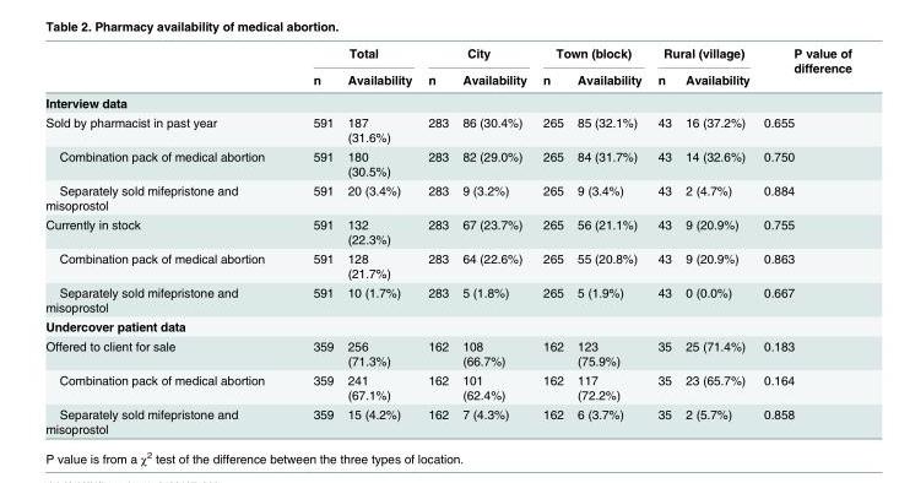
<table><thead><tr><td rowspan="2"></td><td colspan="2">Total</td><td colspan="2">City</td><td colspan="2">Town (block)</td><td colspan="2">Rural (village)</td><td rowspan="2">P value of difference</td></tr><tr><td>n</td><td>Availability</td><td>n</td><td>Availability</td><td>n</td><td>Availability</td><td>n</td><td>Availability</td></tr></thead><tbody><tr><td colspan="10">Interview data</td></tr><tr><td>Sold by pharmacist in past year</td><td>591</td><td>187 (31.6%)</td><td>283</td><td>86 (30.4%)</td><td>265</td><td>85 (32.1%)</td><td>43</td><td>16 (37.2%)</td><td>0.655</td></tr><tr><td>Combination pack of medical abortion</td><td>591</td><td>180 (30.5%)</td><td>283</td><td>82 (29.0%)</td><td>265</td><td>84 (31.7%)</td><td>43</td><td>14 (32.6%)</td><td>0.750</td></tr><tr><td>Separately sold mifepristone and misoprostol</td><td>591</td><td>20 (3.4%)</td><td>283</td><td>9 (3.2%)</td><td>265</td><td>9 (3.4%)</td><td>43</td><td>2 (4.7%)</td><td>0.884</td></tr><tr><td>Currently in stock</td><td>591</td><td>132 (22.3%)</td><td>283</td><td>67 (23.7%)</td><td>265</td><td>56 (21.1%)</td><td>43</td><td>9 (20.9%)</td><td>0.755</td></tr><tr><td>Combination pack of medical abortion</td><td>591</td><td>128 (21.7%)</td><td>283</td><td>64 (22.6%)</td><td>265</td><td>55 (20.8%)</td><td>43</td><td>9 (20.9%)</td><td>0.863</td></tr><tr><td>Separately sold mifepristone and misoprostol</td><td>591</td><td>10 (1.7%)</td><td>283</td><td>5 (1.8%)</td><td>265</td><td>5 (1.9%)</td><td>43</td><td>0 (0.0%)</td><td>0.667</td></tr><tr><td colspan="10">Undercover patient data</td></tr><tr><td>Offered to client for sale</td><td>359</td><td>256 (71.3%)</td><td>162</td><td>108 (66.7%)</td><td>162</td><td>123 (75.9%)</td><td>35</td><td>25 (71.4%)</td><td>0.183</td></tr><tr><td>Combination pack of medical abortion</td><td>359</td><td>241 (67.1%)</td><td>162</td><td>101 (62.4%)</td><td>162</td><td>117 (72.2%)</td><td>35</td><td>23 (65.7%)</td><td>0.164</td></tr><tr><td>Separately sold mifepristone and misoprostol</td><td>359</td><td>15 (4.2%)</td><td>162</td><td>7 (4.3%)</td><td>162</td><td>6 (3.7%)</td><td>35</td><td>2 (5.7%)</td><td>0.858</td></tr></tbody></table>